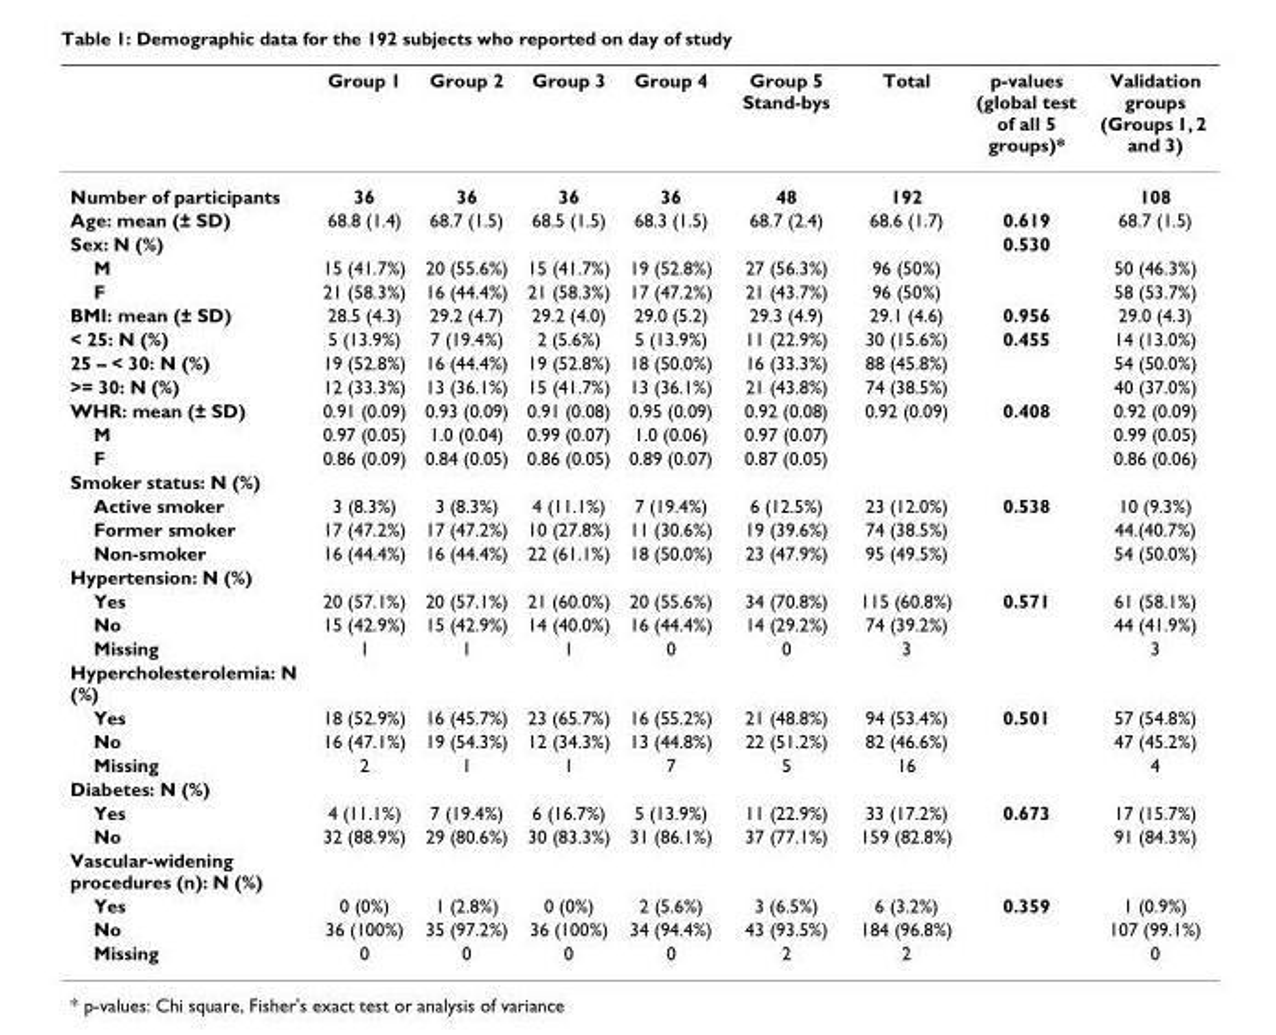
<table><thead><tr><td></td><td>Group 1</td><td>Group 2</td><td>Group 3</td><td>Group 4</td><td>Group 5 Stand-bys</td><td>Total</td><td>p-values (global test of all 5 groups)*</td><td>Validation groups (Groups 1, 2 and 3)</td></tr></thead><tbody><tr><td>Number of participants</td><td>36</td><td>36</td><td>36</td><td>36</td><td>48</td><td>192</td><td></td><td>108</td></tr><tr><td>Age: mean (± SD)</td><td>68.8 (1.4)</td><td>68.7 (1.5)</td><td>68.5 (1.5)</td><td>68.3 (1.5)</td><td>68.7 (2.4)</td><td>68.6 (1.7)</td><td>0.619</td><td>68.7 (1.5)</td></tr><tr><td>Sex: N (%)</td><td></td><td></td><td></td><td></td><td></td><td></td><td>0.530</td><td></td></tr><tr><td>M</td><td>15 (41.7%)</td><td>20 (55.6%)</td><td>15 (41.7%)</td><td>19 (52.8%)</td><td>27 (56.3%)</td><td>96 (50%)</td><td></td><td>50 (46.3%)</td></tr><tr><td>F</td><td>21 (58.3%)</td><td>16 (44.4%)</td><td>21 (58.3%)</td><td>17 (47.2%)</td><td>21 (43.7%)</td><td>96 (50%)</td><td></td><td>58 (53.7%)</td></tr><tr><td>BMI: mean (± SD)</td><td>28.5 (4.3)</td><td>29.2 (4.7)</td><td>29.2 (4.0)</td><td>29.0 (5.2)</td><td>29.3 (4.9)</td><td>29.1 (4.6)</td><td>0.956</td><td>29.0 (4.3)</td></tr><tr><td>&lt; 25: N (%)</td><td>5 (13.9%)</td><td>7 (19.4%)</td><td>2 (5.6%)</td><td>5 (13.9%)</td><td>11 (22.9%)</td><td>30 (15.6%)</td><td>0.455</td><td>14 (13.0%)</td></tr><tr><td>25 – &lt; 30: N (%)</td><td>19 (52.8%)</td><td>16 (44.4%)</td><td>19 (52.8%)</td><td>18 (50.0%)</td><td>16 (33.3%)</td><td>88 (45.8%)</td><td></td><td>54 (50.0%)</td></tr><tr><td>&gt;= 30: N (%)</td><td>12 (33.3%)</td><td>13 (36.1%)</td><td>15 (41.7%)</td><td>13 (36.1%)</td><td>21 (43.8%)</td><td>74 (38.5%)</td><td></td><td>40 (37.0%)</td></tr><tr><td>WHR: mean (± SD)</td><td>0.91 (0.09)</td><td>0.93 (0.09)</td><td>0.91 (0.08)</td><td>0.95 (0.09)</td><td>0.92 (0.08)</td><td>0.92 (0.09)</td><td>0.408</td><td>0.92 (0.09)</td></tr><tr><td>M</td><td>0.97 (0.05)</td><td>1.0 (0.04)</td><td>0.99 (0.07)</td><td>1.0 (0.06)</td><td>0.97 (0.07)</td><td></td><td></td><td>0.99 (0.05)</td></tr><tr><td>F</td><td>0.86 (0.09)</td><td>0.84 (0.05)</td><td>0.86 (0.05)</td><td>0.89 (0.07)</td><td>0.87 (0.05)</td><td></td><td></td><td>0.86 (0.06)</td></tr><tr><td colspan="9">Smoker status: N (%)</td></tr><tr><td>Active smoker</td><td>3 (8.3%)</td><td>3 (8.3%)</td><td>4 (11.1%)</td><td>7 (19.4%)</td><td>6 (12.5%)</td><td>23 (12.0%)</td><td>0.538</td><td>10 (9.3%)</td></tr><tr><td>Former smoker</td><td>17 (47.2%)</td><td>17 (47.2%)</td><td>10 (27.8%)</td><td>11 (30.6%)</td><td>19 (39.6%)</td><td>74 (38.5%)</td><td></td><td>44.(40.7%)</td></tr><tr><td>Non-smoker</td><td>16 (44.4%)</td><td>16 (44.4%)</td><td>22 (61.1%)</td><td>18 (50.0%)</td><td>23 (47.9%)</td><td>95 (49.5%)</td><td></td><td>54 (50.0%)</td></tr><tr><td colspan="9">Hypertension: N (%)</td></tr><tr><td>Yes</td><td>20 (57.1%)</td><td>20 (57.1%)</td><td>21 (60.0%)</td><td>20 (55.6%)</td><td>34 (70.8%)</td><td>115 (60.8%)</td><td>0.571</td><td>61 (58.1%)</td></tr><tr><td>No</td><td>15 (42.9%)</td><td>15 (42.9%)</td><td>14 (40.0%)</td><td>16 (44.4%)</td><td>14 (29.2%)</td><td>74 (39.2%)</td><td></td><td>44 (41.9%)</td></tr><tr><td>Missing</td><td>1</td><td>1</td><td>1</td><td>0</td><td>0</td><td>3</td><td></td><td>3</td></tr><tr><td colspan="9">Hypercholesterolemia: N (%)</td></tr><tr><td>Yes</td><td>18 (52.9%)</td><td>16 (45.7%)</td><td>23 (65.7%)</td><td>16 (55.2%)</td><td>21 (48.8%)</td><td>94 (53.4%)</td><td>0.501</td><td>57 (54.8%)</td></tr><tr><td>No</td><td>16 (47.1%)</td><td>19 (54.3%)</td><td>12 (34.3%)</td><td>13 (44.8%)</td><td>22 (51.2%)</td><td>82 (46.6%)</td><td></td><td>47 (45.2%)</td></tr><tr><td>Missing</td><td>2</td><td>1</td><td>1</td><td>7</td><td>5</td><td>16</td><td></td><td>4</td></tr><tr><td colspan="9">Diabetes: N (%)</td></tr><tr><td>Yes</td><td>4 (11.1%)</td><td>7 (19.4%)</td><td>6 (16.7%)</td><td>5 (13.9%)</td><td>11 (22.9%)</td><td>33 (17.2%)</td><td>0.673</td><td>17 (15.7%)</td></tr><tr><td>No</td><td>32 (88.9%)</td><td>29 (80.6%)</td><td>30 (83.3%)</td><td>31 (86.1%)</td><td>37 (77.1%)</td><td>159 (82.8%)</td><td></td><td>91 (84.3%)</td></tr><tr><td colspan="9">Vascular-widening procedures (n): N (%)</td></tr><tr><td>Yes</td><td>0 (0%)</td><td>1 (2.8%)</td><td>0 (0%)</td><td>2 (5.6%)</td><td>3 (6.5%)</td><td>6 (3.2%)</td><td>0.359</td><td>1 (0.9%)</td></tr><tr><td>No</td><td>36 (100%)</td><td>35 (97.2%)</td><td>36 (100%)</td><td>34 (94.4%)</td><td>43 (93.5%)</td><td>184 (96.8%)</td><td></td><td>107 (99.1%)</td></tr><tr><td>Missing</td><td>0</td><td>0</td><td>0</td><td>0</td><td>2</td><td>2</td><td></td><td>0</td></tr></tbody></table>